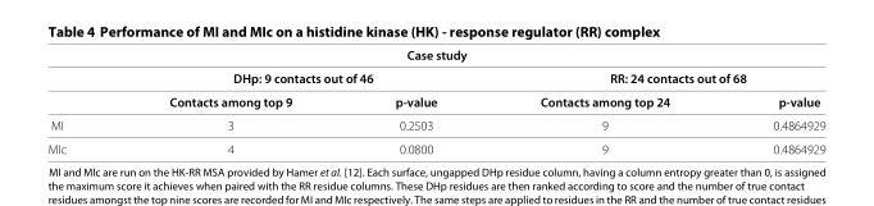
<table><thead><tr><td colspan="5">Case study</td></tr><tr><td rowspan="2"></td><td colspan="2">DHp: 9 contacts out of 46</td><td colspan="2">RR: 24 contacts out of 68</td></tr><tr><td>Contacts among top 9</td><td>p-value</td><td>Contacts among top 24</td><td>p-value</td></tr></thead><tbody><tr><td>MI</td><td>3</td><td>0.2503</td><td>9</td><td>0.4864929</td></tr><tr><td>MIc</td><td>4</td><td>0.0800</td><td>9</td><td>0.4864929</td></tr></tbody></table>